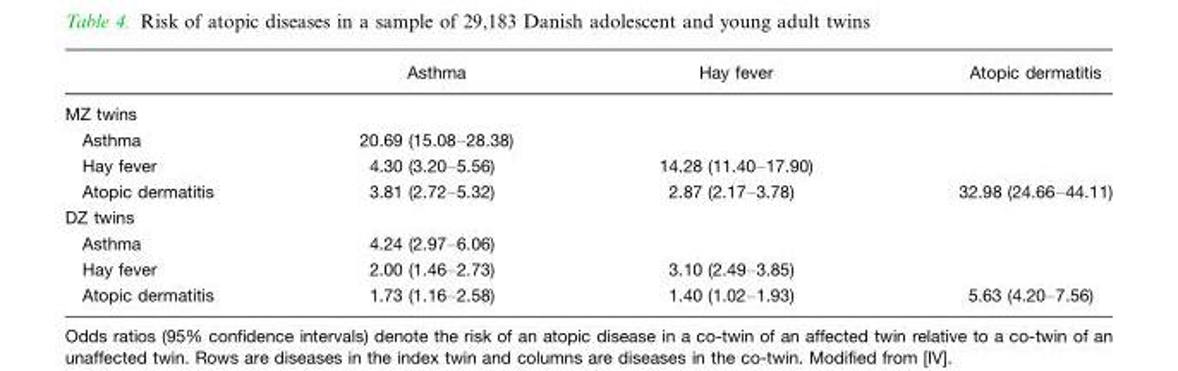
<table><thead><tr><td></td><td>Asthma</td><td>Hay fever</td><td>Atopic dermatitis</td></tr></thead><tbody><tr><td colspan="4">MZ twins</td></tr><tr><td>Asthma</td><td>20.69 (15.08–28.38)</td><td></td><td></td></tr><tr><td>Hay fever</td><td>4.30 (3.20–5.56)</td><td>14.28 (11.40–17.90)</td><td></td></tr><tr><td>Atopic dermatitis</td><td>3.81 (2.72–5.32)</td><td>2.87 (2.17–3.78)</td><td>32.98 (24.66–44.11)</td></tr><tr><td colspan="4">DZ twins</td></tr><tr><td>Asthma</td><td>4.24 (2.97–6.06)</td><td></td><td></td></tr><tr><td>Hay fever</td><td>2.00 (1.46–2.73)</td><td>3.10 (2.49–3.85)</td><td></td></tr><tr><td>Atopic dermatitis</td><td>1.73 (1.16–2.58)</td><td>1.40 (1.02–1.93)</td><td>5.63 (4.20–7.56)</td></tr></tbody></table>